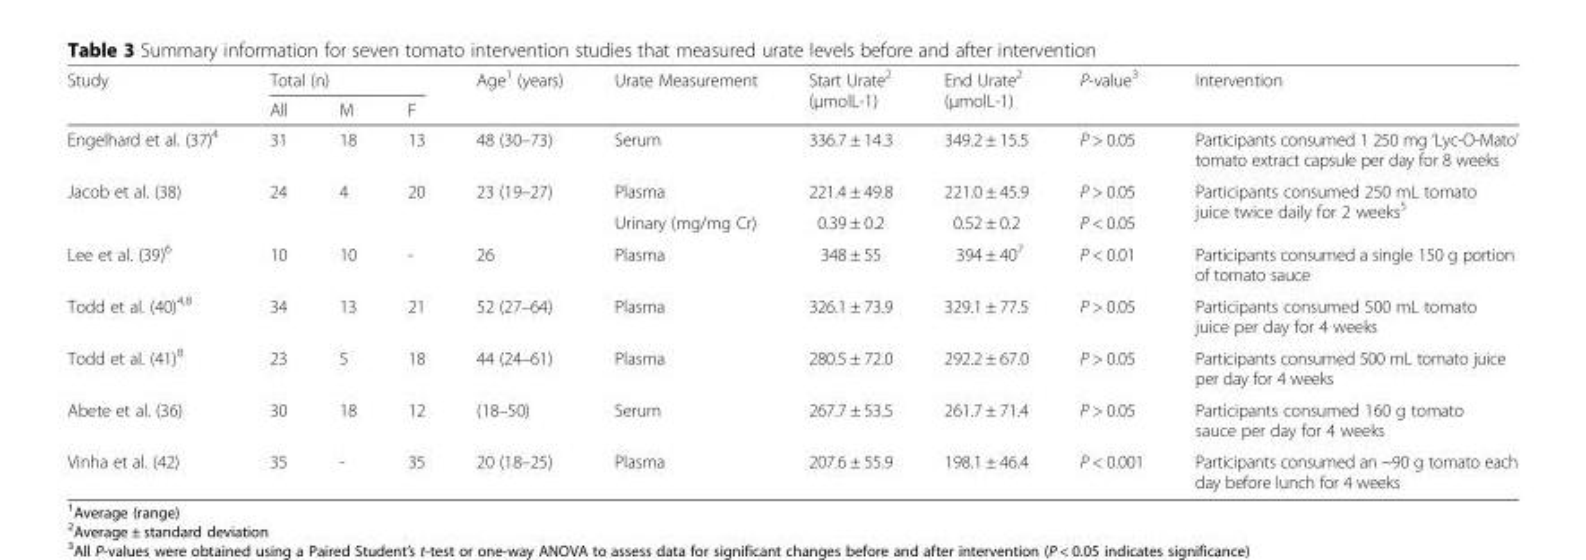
<table><thead><tr><td rowspan="2">Study</td><td colspan="3">Total (n)</td><td rowspan="2">Age<sup>1</sup> (years)</td><td rowspan="2">Urate Measurement</td><td rowspan="2">Start Urate<sup>2</sup> (μmolL-1)</td><td rowspan="2">End Urate<sup>2</sup> (μmolL-1)</td><td rowspan="2">P-value<sup>3</sup></td><td rowspan="2">Intervention</td></tr><tr><td>All</td><td>M</td><td>F</td></tr></thead><tbody><tr><td>Engelhard et al. (37)<sup>4</sup></td><td>31</td><td>18</td><td>13</td><td>48 (30–73)</td><td>Serum</td><td>336.7 ± 14.3</td><td>349.2 ± 15.5</td><td>P &gt; 0.05</td><td>Participants consumed 1 250 mg ‘Lyc-O-Mato’ tomato extract capsule per day for 8 weeks</td></tr><tr><td rowspan="2">Jacob et al. (38)</td><td rowspan="2">24</td><td rowspan="2">4</td><td rowspan="2">20</td><td rowspan="2">23 (19–27)</td><td>Plasma</td><td>221.4 ± 49.8</td><td>221.0 ± 45.9</td><td>P &gt; 0.05</td><td rowspan="2">Participants consumed 250 mL tomato juice twice daily for 2 weeks<sup>5</sup></td></tr><tr><td>Urinary (mg/mg Cr)</td><td>0.39 ± 0.2</td><td>0.52 ± 0.2</td><td>P &lt; 0.05</td></tr><tr><td>Lee et al. (39)<sup>6</sup></td><td>10</td><td>10</td><td>-</td><td>26</td><td>Plasma</td><td>348 ± 55</td><td>394 ± 40<sup>7</sup></td><td>P &lt; 0.01</td><td>Participants consumed a single 150 g portion of tomato sauce</td></tr><tr><td>Todd et al. (40)<sup>4,8</sup></td><td>34</td><td>13</td><td>21</td><td>52 (27–64)</td><td>Plasma</td><td>326.1 ± 73.9</td><td>329.1 ± 77.5</td><td>P &gt; 0.05</td><td>Participants consumed 500 mL tomato juice per day for 4 weeks</td></tr><tr><td>Todd et al. (41)<sup>8</sup></td><td>23</td><td>5</td><td>18</td><td>44 (24–61)</td><td>Plasma</td><td>280.5 ± 72.0</td><td>292.2 ± 67.0</td><td>P &gt; 0.05</td><td>Participants consumed 500 mL tomato juice per day for 4 weeks</td></tr><tr><td>Abete et al. (36)</td><td>30</td><td>18</td><td>12</td><td>(18–50)</td><td>Serum</td><td>267.7 ± 53.5</td><td>261.7 ± 71.4</td><td>P &gt; 0.05</td><td>Participants consumed 160 g tomato sauce per day for 4 weeks</td></tr><tr><td>Vinha et al. (42)</td><td>35</td><td>-</td><td>35</td><td>20 (18–25)</td><td>Plasma</td><td>207.6 ± 55.9</td><td>198.1 ± 46.4</td><td>P &lt; 0.001</td><td>Participants consumed an ~90 g tomato each day before lunch for 4 weeks</td></tr></tbody></table>